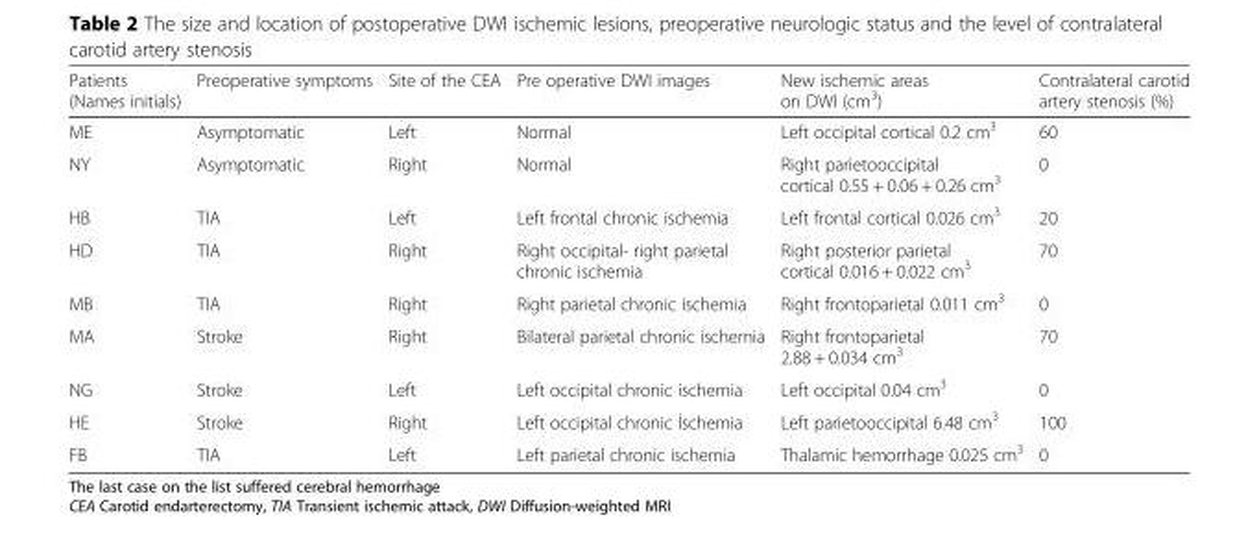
<table><thead><tr><td>Patients (Names initials)</td><td>Preoperative symptoms</td><td>Site of the CEA</td><td>Pre operative DWI images</td><td>New ischemic areas on DWI (cm<sup>3</sup>)</td><td>Contralateral carotid artery stenosis (%)</td></tr></thead><tbody><tr><td>ME</td><td>Asymptomatic</td><td>Left</td><td>Normal</td><td>Left occipital cortical 0.2 cm<sup>3</sup></td><td>60</td></tr><tr><td>NY</td><td>Asymptomatic</td><td>Right</td><td>Normal</td><td>Right parietooccipital cortical 0.55 + 0.06 + 0.26 cm<sup>3</sup></td><td>0</td></tr><tr><td>HB</td><td>TIA</td><td>Left</td><td>Left frontal chronic ischemia</td><td>Left frontal cortical 0.026 cm<sup>3</sup></td><td>20</td></tr><tr><td>HD</td><td>TIA</td><td>Right</td><td>Right occipital- right parietal chronic ischemia</td><td>Right posterior parietal cortical 0.016 + 0.022 cm<sup>3</sup></td><td>70</td></tr><tr><td>MB</td><td>TIA</td><td>Right</td><td>Right parietal chronic ischemia</td><td>Right frontoparietal 0.011 cm<sup>3</sup></td><td>0</td></tr><tr><td>MA</td><td>Stroke</td><td>Right</td><td>Bilateral parietal chronic ischemia</td><td>Right frontoparietal 2.88 + 0.034 cm<sup>3</sup></td><td>70</td></tr><tr><td>NG</td><td>Stroke</td><td>Left</td><td>Left occipital chronic ischemia</td><td>Left occipital 0.04 cm<sup>3</sup></td><td>0</td></tr><tr><td>HE</td><td>Stroke</td><td>Right</td><td>Left occipital chronic İschemia</td><td>Left parietooccipital 6.48 cm<sup>3</sup></td><td>100</td></tr><tr><td>FB</td><td>TIA</td><td>Left</td><td>Left parietal chronic ischemia</td><td>Thalamic hemorrhage 0.025 cm<sup>3</sup></td><td>0</td></tr></tbody></table>